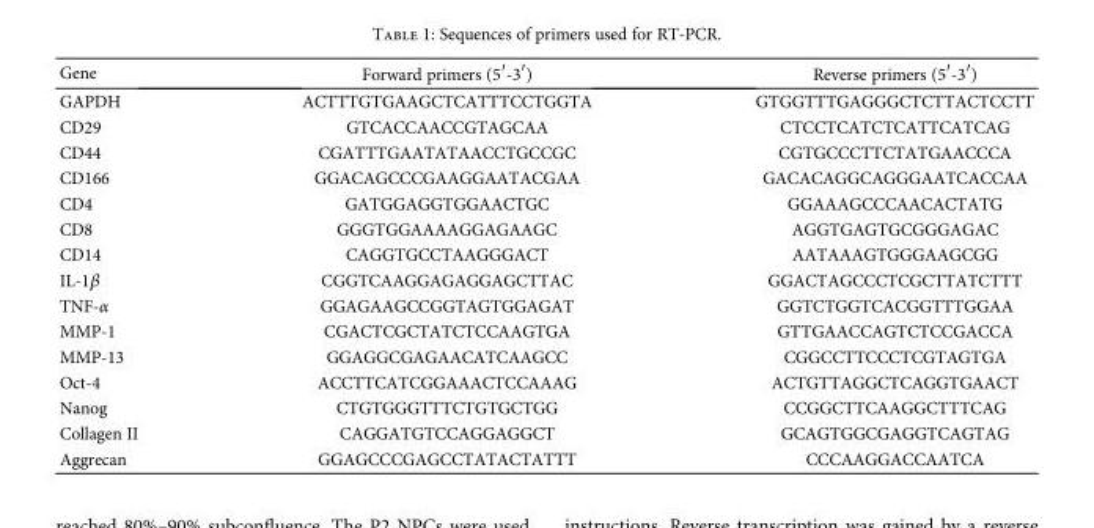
<table><thead><tr><td>Gene</td><td>Forward primers (5′-3′)</td><td>Reverse primers (5′-3′)</td></tr></thead><tbody><tr><td>GAPDH</td><td>ACTTTGTGAAGCTCATTTCCTGGTA</td><td>GTGGTTTGAGGGCTCTTACTCCTT</td></tr><tr><td>CD29</td><td>GTCACCAACCGTAGCAA</td><td>CTCCTCATCTCATTCATCAG</td></tr><tr><td>CD44</td><td>CGATTTGAATATAACCTGCCGC</td><td>CGTGCCCTTCTATGAACCCA</td></tr><tr><td>CD166</td><td>GGACAGCCCGAAGGAATACGAA</td><td>GACACAGGCAGGGAATCACCAA</td></tr><tr><td>CD4</td><td>GATGGAGGTGGAACTGC</td><td>GGAAAGCCCAACACTATG</td></tr><tr><td>CD8</td><td>GGGTGGAAAAGGAGAAGC</td><td>AGGTGAGTGCGGGAGAC</td></tr><tr><td>CD14</td><td>CAGGTGCCTAAGGGACT</td><td>AATAAAGTGGGAAGCGG</td></tr><tr><td>IL-1β</td><td>CGGTCAAGGAGAGGAGCTTAC</td><td>GGACTAGCCCTCGCTTATCTTT</td></tr><tr><td>TNF-α</td><td>GGAGAAGCCGGTAGTGGAGAT</td><td>GGTCTGGTCACGGTTTGGAA</td></tr><tr><td>MMP-1</td><td>CGACTCGCTATCTCCAAGTGA</td><td>GTTGAACCAGTCTCCGACCA</td></tr><tr><td>MMP-13</td><td>GGAGGCGAGAACATCAAGCC</td><td>CGGCCTTCCCTCGTAGTGA</td></tr><tr><td>Oct-4</td><td>ACCTTCATCGGAAACTCCAAAG</td><td>ACTGTTAGGCTCAGGTGAACT</td></tr><tr><td>Nanog</td><td>CTGTGGGTTTCTGTGCTGG</td><td>CCGGCTTCAAGGCTTTCAG</td></tr><tr><td>Collagen II</td><td>CAGGATGTCCAGGAGGCT</td><td>GCAGTGGCGAGGTCAGTAG</td></tr><tr><td>Aggrecan</td><td>GGAGCCCGAGCCTATACTATTT</td><td>CCCAAGGACCAATCA</td></tr></tbody></table>